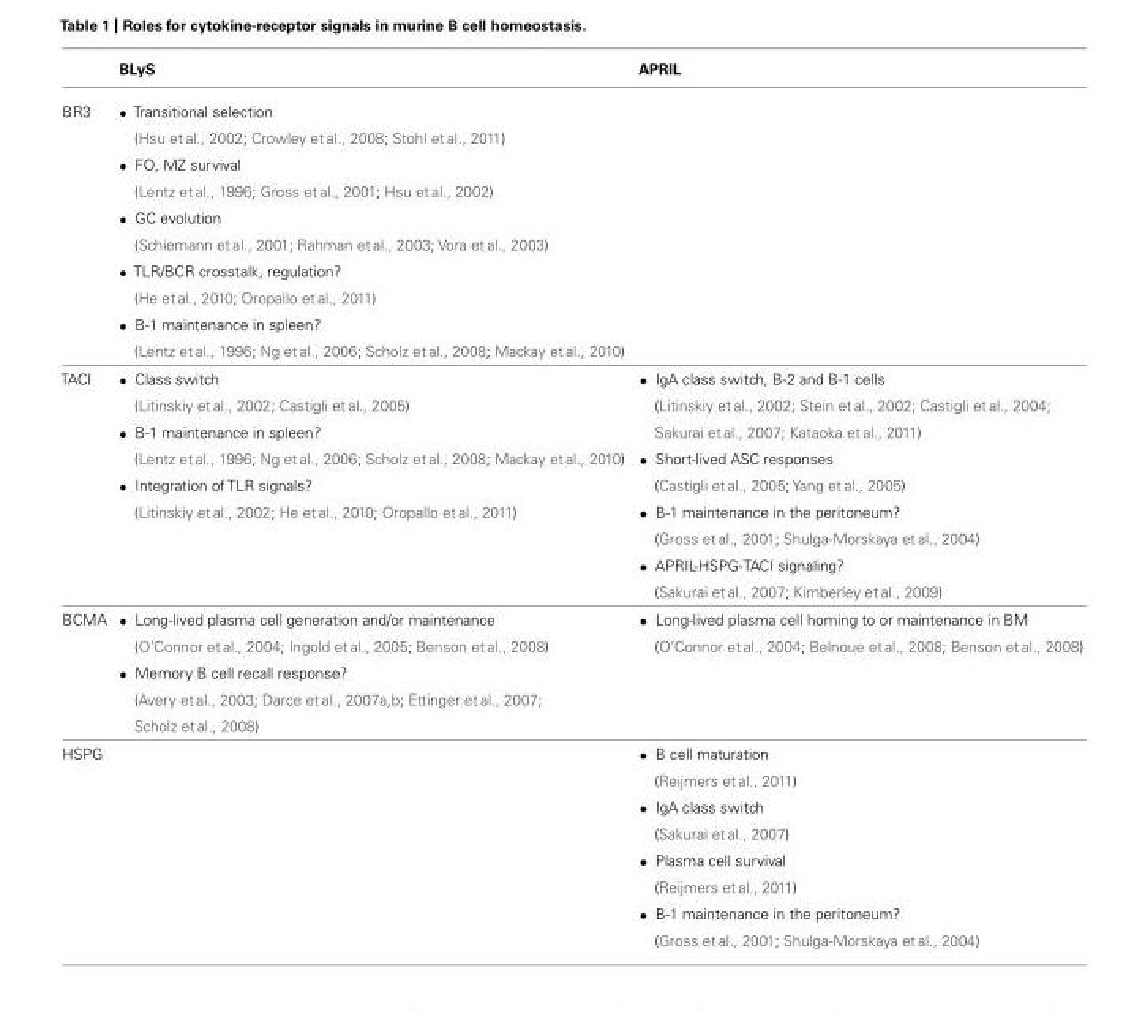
<table><thead><tr><td></td><td>BLyS</td><td>APRIL</td></tr></thead><tbody><tr><td>BR3</td><td>• Transitional selection (Hsu et al., 2002; Crowley et al., 2008; Stohl et al., 2011) • FO, MZ survival (Lentz et al., 1996; Gross et al., 2001; Hsu et al., 2002) • GC evolution (Schiemann et al., 2001; Rahman et al., 2003; Vora et al., 2003) • TLR/BCR crosstalk, regulation? (He et al., 2010; Oropallo et al., 2011) • B-1 maintenance in spleen? (Lentz et al., 1996; Ng et al., 2006; Scholz et al., 2008; Mackay et al., 2010)</td><td></td></tr><tr><td>TACI</td><td>• Class switch (Litinskiy et al., 2002; Castigli et al., 2005) • B-1 maintenance in spleen? (Lentz et al., 1996; Ng et al., 2006; Scholz et al., 2008; Mackay et al., 2010) • Integration of TLR signals? (Litinskiy et al., 2002; He et al., 2010; Oropallo et al., 2011)</td><td>• IgA class switch, B-2 and B-1 cells (Litinskiy et al., 2002; Stein et al., 2002; Castigli et al., 2004; Sakurai et al., 2007; Kataoka et al., 2011) • Short-lived ASC responses (Castigli et al., 2005; Yang et al., 2005) • B-1 maintenance in the peritoneum? (Gross et al., 2001; Shulga-Morskaya et al., 2004) • APRIL-HSPG-TACI signaling? (Sakurai et al., 2007; Kimberley et al., 2009)</td></tr><tr><td>BCMA</td><td>• Long-lived plasma cell generation and/or maintenance (O’Connor et al., 2004; Ingold et al., 2005; Benson et al., 2008) • Memory B cell recall response? (Avery et al., 2003; Darce et al., 2007a,b; Ettinger et al., 2007; Scholz et al., 2008)</td><td>• Long-lived plasma cell homing to or maintenance in BM (O’Connor et al., 2004; Belnoue et al., 2008; Benson et al., 2008)</td></tr><tr><td>HSPG</td><td></td><td>• B cell maturation (Reijmers et al., 2011) • IgA class switch (Sakurai et al., 2007) • Plasma cell survival (Reijmers et al., 2011) • B-1 maintenance in the peritoneum? (Gross et al., 2001; Shulga-Morskaya et al., 2004)</td></tr></tbody></table>